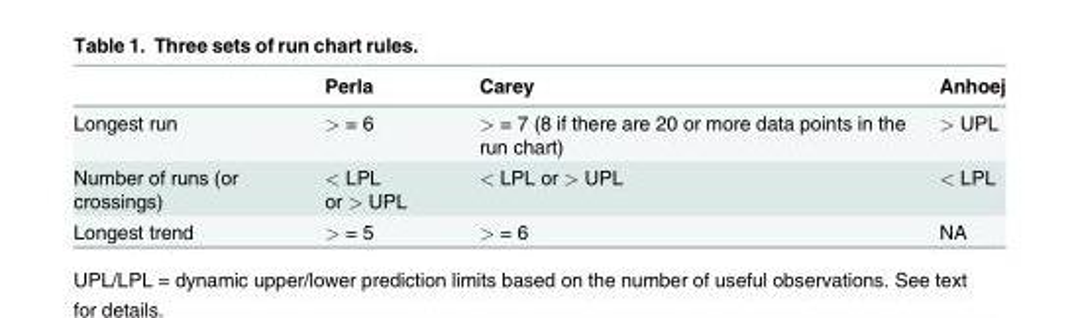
<table><thead><tr><td></td><td>Perla</td><td>Carey</td><td>Anhoej</td></tr></thead><tbody><tr><td>Longest run</td><td>&gt; = 6</td><td>&gt; = 7 (8 if there are 20 or more data points in the run chart)</td><td>&gt; UPL</td></tr><tr><td>Number of runs (or crossings)</td><td>&lt; LPL or &gt; UPL</td><td>&lt; LPL or &gt; UPL</td><td>&lt; LPL</td></tr><tr><td>Longest trend</td><td>&gt; = 5</td><td>&gt; = 6</td><td>NA</td></tr></tbody></table>